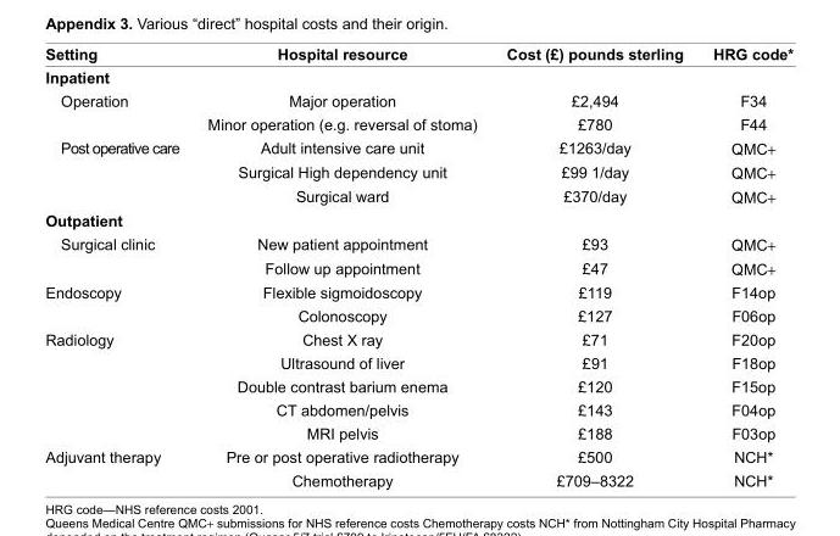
<table><thead><tr><td>Setting</td><td>Hospital resource</td><td>Cost (£) pounds sterling</td><td>HRG code*</td></tr></thead><tbody><tr><td colspan="4">Inpatient</td></tr><tr><td rowspan="2">Operation</td><td>Major operation</td><td>£2,494</td><td>F34</td></tr><tr><td>Minor operation (e.g. reversal of stoma)</td><td>£780</td><td>F44</td></tr><tr><td rowspan="3">Post operative care</td><td>Adult intensive care unit</td><td>£1263/day</td><td>QMC+</td></tr><tr><td>Surgical High dependency unit</td><td>£99 1/day</td><td>QMC+</td></tr><tr><td>Surgical ward</td><td>£370/day</td><td>QMC+</td></tr><tr><td colspan="4">Outpatient</td></tr><tr><td rowspan="2">Surgical clinic</td><td>New patient appointment</td><td>£93</td><td>QMC+</td></tr><tr><td>Follow up appointment</td><td>£47</td><td>QMC+</td></tr><tr><td rowspan="2">Endoscopy</td><td>Flexible sigmoidoscopy</td><td>£119</td><td>F14op</td></tr><tr><td>Colonoscopy</td><td>£127</td><td>F06op</td></tr><tr><td rowspan="5">Radiology</td><td>Chest X ray</td><td>£71</td><td>F20op</td></tr><tr><td>Ultrasound of liver</td><td>£91</td><td>F18op</td></tr><tr><td>Double contrast barium enema</td><td>£120</td><td>F15op</td></tr><tr><td>CT abdomen/pelvis</td><td>£143</td><td>F04op</td></tr><tr><td>MRI pelvis</td><td>£188</td><td>F03op</td></tr><tr><td rowspan="2">Adjuvant therapy</td><td>Pre or post operative radiotherapy</td><td>£500</td><td>NCH*</td></tr><tr><td>Chemotherapy</td><td>£709–8322</td><td>NCH*</td></tr></tbody></table>